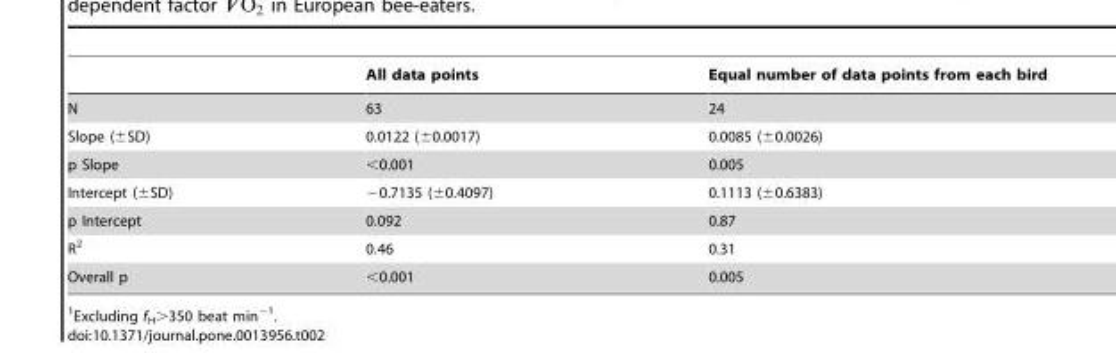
<table><thead><tr><td></td><td>All data points</td><td>Equal number of data points from each bird</td></tr></thead><tbody><tr><td>N</td><td>63</td><td>24</td></tr><tr><td>Slope (±SD)</td><td>0.0122 (±0.0017)</td><td>0.0085 (±0.0026)</td></tr><tr><td>p Slope</td><td>&lt;0.001</td><td>0.005</td></tr><tr><td>Intercept (±SD)</td><td>−0.7135 (±0.4097)</td><td>0.1113 (±0.6383)</td></tr><tr><td>p Intercept</td><td>0.092</td><td>0.87</td></tr><tr><td>R<sup>2</sup></td><td>0.46</td><td>0.31</td></tr><tr><td>Overall p</td><td>&lt;0.001</td><td>0.005</td></tr></tbody></table>